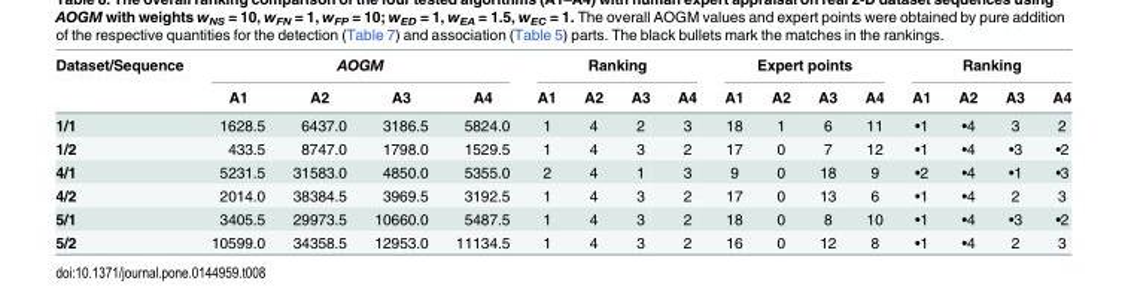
<table><thead><tr><td rowspan="2">Dataset/Sequence</td><td colspan="4">AOGM</td><td colspan="4">Ranking</td><td colspan="4">Expert points</td><td colspan="4">Ranking</td></tr><tr><td>A1</td><td>A2</td><td>A3</td><td>A4</td><td>A1</td><td>A2</td><td>A3</td><td>A4</td><td>A1</td><td>A2</td><td>A3</td><td>A4</td><td>A1</td><td>A2</td><td>A3</td><td>A4</td></tr></thead><tbody><tr><td>1/1</td><td>1628.5</td><td>6437.0</td><td>3186.5</td><td>5824.0</td><td>1</td><td>4</td><td>2</td><td>3</td><td>18</td><td>1</td><td>6</td><td>11</td><td>•1</td><td>•4</td><td>3</td><td>2</td></tr><tr><td>1/2</td><td>433.5</td><td>8747.0</td><td>1798.0</td><td>1529.5</td><td>1</td><td>4</td><td>3</td><td>2</td><td>17</td><td>0</td><td>7</td><td>12</td><td>•1</td><td>•4</td><td>•3</td><td>•2</td></tr><tr><td>4/1</td><td>5231.5</td><td>31583.0</td><td>4850.0</td><td>5355.0</td><td>2</td><td>4</td><td>1</td><td>3</td><td>9</td><td>0</td><td>18</td><td>9</td><td>•2</td><td>•4</td><td>•1</td><td>•3</td></tr><tr><td>4/2</td><td>2014.0</td><td>38384.5</td><td>3969.5</td><td>3192.5</td><td>1</td><td>4</td><td>3</td><td>2</td><td>17</td><td>0</td><td>13</td><td>6</td><td>•1</td><td>•4</td><td>2</td><td>3</td></tr><tr><td>5/1</td><td>3405.5</td><td>29973.5</td><td>10660.0</td><td>5487.5</td><td>1</td><td>4</td><td>3</td><td>2</td><td>18</td><td>0</td><td>8</td><td>10</td><td>•1</td><td>•4</td><td>•3</td><td>•2</td></tr><tr><td>5/2</td><td>10599.0</td><td>34358.5</td><td>12953.0</td><td>11134.5</td><td>1</td><td>4</td><td>3</td><td>2</td><td>16</td><td>0</td><td>12</td><td>8</td><td>•1</td><td>•4</td><td>2</td><td>3</td></tr></tbody></table>